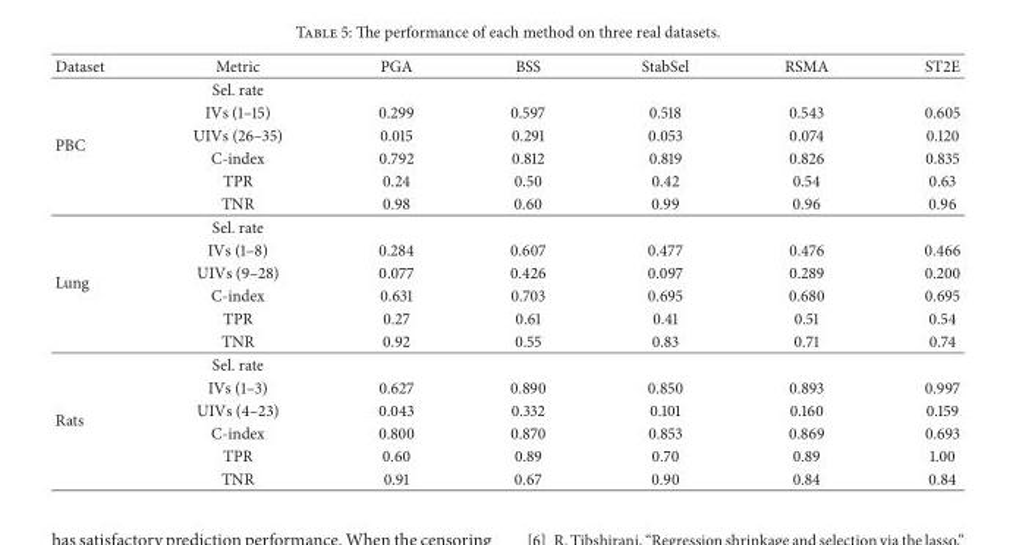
<table><thead><tr><td>Dataset</td><td>Metric</td><td>PGA</td><td>BSS</td><td>StabSel</td><td>RSMA</td><td>ST2E</td></tr></thead><tbody><tr><td rowspan="6">PBC</td><td>Sel. rate</td><td></td><td></td><td></td><td></td><td></td></tr><tr><td>IVs (1–15)</td><td>0.299</td><td>0.597</td><td>0.518</td><td>0.543</td><td>0.605</td></tr><tr><td>UIVs (26–35)</td><td>0.015</td><td>0.291</td><td>0.053</td><td>0.074</td><td>0.120</td></tr><tr><td>C-index</td><td>0.792</td><td>0.812</td><td>0.819</td><td>0.826</td><td>0.835</td></tr><tr><td>TPR</td><td>0.24</td><td>0.50</td><td>0.42</td><td>0.54</td><td>0.63</td></tr><tr><td>TNR</td><td>0.98</td><td>0.60</td><td>0.99</td><td>0.96</td><td>0.96</td></tr><tr><td rowspan="6">Lung</td><td>Sel. rate</td><td></td><td></td><td></td><td></td><td></td></tr><tr><td>IVs (1–8)</td><td>0.284</td><td>0.607</td><td>0.477</td><td>0.476</td><td>0.466</td></tr><tr><td>UIVs (9–28)</td><td>0.077</td><td>0.426</td><td>0.097</td><td>0.289</td><td>0.200</td></tr><tr><td>C-index</td><td>0.631</td><td>0.703</td><td>0.695</td><td>0.680</td><td>0.695</td></tr><tr><td>TPR</td><td>0.27</td><td>0.61</td><td>0.41</td><td>0.51</td><td>0.54</td></tr><tr><td>TNR</td><td>0.92</td><td>0.55</td><td>0.83</td><td>0.71</td><td>0.74</td></tr><tr><td rowspan="6">Rats</td><td>Sel. rate</td><td></td><td></td><td></td><td></td><td></td></tr><tr><td>IVs (1–3)</td><td>0.627</td><td>0.890</td><td>0.850</td><td>0.893</td><td>0.997</td></tr><tr><td>UIVs (4–23)</td><td>0.043</td><td>0.332</td><td>0.101</td><td>0.160</td><td>0.159</td></tr><tr><td>C-index</td><td>0.800</td><td>0.870</td><td>0.853</td><td>0.869</td><td>0.693</td></tr><tr><td>TPR</td><td>0.60</td><td>0.89</td><td>0.70</td><td>0.89</td><td>1.00</td></tr><tr><td>TNR</td><td>0.91</td><td>0.67</td><td>0.90</td><td>0.84</td><td>0.84</td></tr></tbody></table>